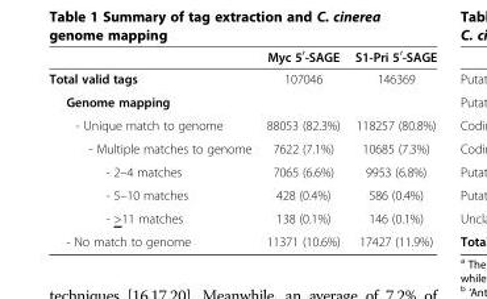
<table><thead><tr><td></td><td>Myc 5<sup>′</sup>-SAGE</td><td>S1-Pri 5<sup>′</sup>-SAGE</td></tr></thead><tbody><tr><td>Total valid tags</td><td>107046</td><td>146369</td></tr><tr><td colspan="3">Genome mapping</td></tr><tr><td>- Unique match to genome</td><td>88053 (82.3%)</td><td>118257 (80.8%)</td></tr><tr><td>- Multiple matches to genome</td><td>7622 (7.1%)</td><td>10685 (7.3%)</td></tr><tr><td>- 2–4 matches</td><td>7065 (6.6%)</td><td>9953 (6.8%)</td></tr><tr><td>- 5–10 matches</td><td>428 (0.4%)</td><td>586 (0.4%)</td></tr><tr><td>- &gt;11 matches</td><td>138 (0.1%)</td><td>146 (0.1%)</td></tr><tr><td>- No match to genome</td><td>11371 (10.6%)</td><td>17427 (11.9%)</td></tr></tbody></table>